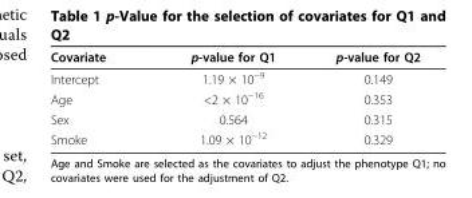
<table><thead><tr><td>Covariate</td><td>p-value for Q1</td><td>p-value for Q2</td></tr></thead><tbody><tr><td>Intercept</td><td>1.19 × 10<sup>−9</sup></td><td>0.149</td></tr><tr><td>Age</td><td>&lt;2 × 10<sup>−16</sup></td><td>0.353</td></tr><tr><td>Sex</td><td>0.564</td><td>0.315</td></tr><tr><td>Smoke</td><td>1.09 × 10<sup>−12</sup></td><td>0.329</td></tr></tbody></table>